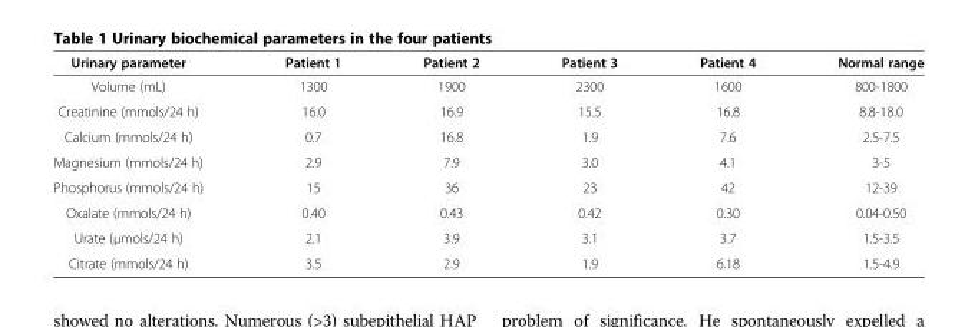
<table><thead><tr><td>Urinary parameter</td><td>Patient 1</td><td>Patient 2</td><td>Patient 3</td><td>Patient 4</td><td>Normal range</td></tr></thead><tbody><tr><td>Volume (mL)</td><td>1300</td><td>1900</td><td>2300</td><td>1600</td><td>800-1800</td></tr><tr><td>Creatinine (mmols/24 h)</td><td>16.0</td><td>16.9</td><td>15.5</td><td>16.8</td><td>8.8-18.0</td></tr><tr><td>Calcium (mmols/24 h)</td><td>0.7</td><td>16.8</td><td>1.9</td><td>7.6</td><td>2.5-7.5</td></tr><tr><td>Magnesium (mmols/24 h)</td><td>2.9</td><td>7.9</td><td>3.0</td><td>4.1</td><td>3-5</td></tr><tr><td>Phosphorus (mmols/24 h)</td><td>15</td><td>36</td><td>23</td><td>42</td><td>12-39</td></tr><tr><td>Oxalate (mmols/24 h)</td><td>0.40</td><td>0.43</td><td>0.42</td><td>0.30</td><td>0.04-0.50</td></tr><tr><td>Urate (μmols/24 h)</td><td>2.1</td><td>3.9</td><td>3.1</td><td>3.7</td><td>1.5-3.5</td></tr><tr><td>Citrate (mmols/24 h)</td><td>3.5</td><td>2.9</td><td>1.9</td><td>6.18</td><td>1.5-4.9</td></tr></tbody></table>